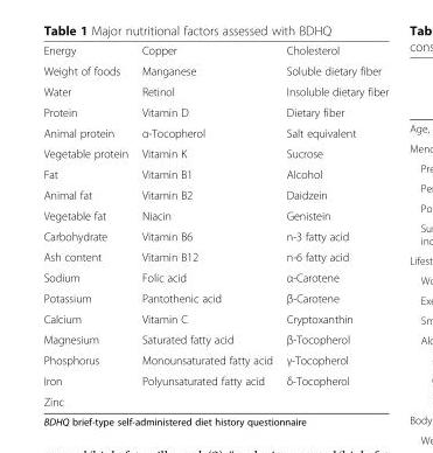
<table><tbody><tr><td>Energy</td><td>Copper</td><td>Cholesterol</td></tr><tr><td>Weight of foods</td><td>Manganese</td><td>Soluble dietary fiber</td></tr><tr><td>Water</td><td>Retinol</td><td>Insoluble dietary fiber</td></tr><tr><td>Protein</td><td>Vitamin D</td><td>Dietary fiber</td></tr><tr><td>Animal protein</td><td>α-Tocopherol</td><td>Salt equivalent</td></tr><tr><td>Vegetable protein</td><td>Vitamin K</td><td>Sucrose</td></tr><tr><td>Fat</td><td>Vitamin B1</td><td>Alcohol</td></tr><tr><td>Animal fat</td><td>Vitamin B2</td><td>Daidzein</td></tr><tr><td>Vegetable fat</td><td>Niacin</td><td>Genistein</td></tr><tr><td>Carbohydrate</td><td>Vitamin B6</td><td>n-3 fatty acid</td></tr><tr><td>Ash content</td><td>Vitamin B12</td><td>n-6 fatty acid</td></tr><tr><td>Sodium</td><td>Folic acid</td><td>α-Carotene</td></tr><tr><td>Potassium</td><td>Pantothenic acid</td><td>β-Carotene</td></tr><tr><td>Calcium</td><td>Vitamin C</td><td>Cryptoxanthin</td></tr><tr><td>Magnesium</td><td>Saturated fatty acid</td><td>β-Tocopherol</td></tr><tr><td>Phosphorus</td><td>Monounsaturated fatty acid</td><td>γ-Tocopherol</td></tr><tr><td>Iron</td><td>Polyunsaturated fatty acid</td><td>δ-Tocopherol</td></tr><tr><td>Zinc</td><td></td><td></td></tr></tbody></table>